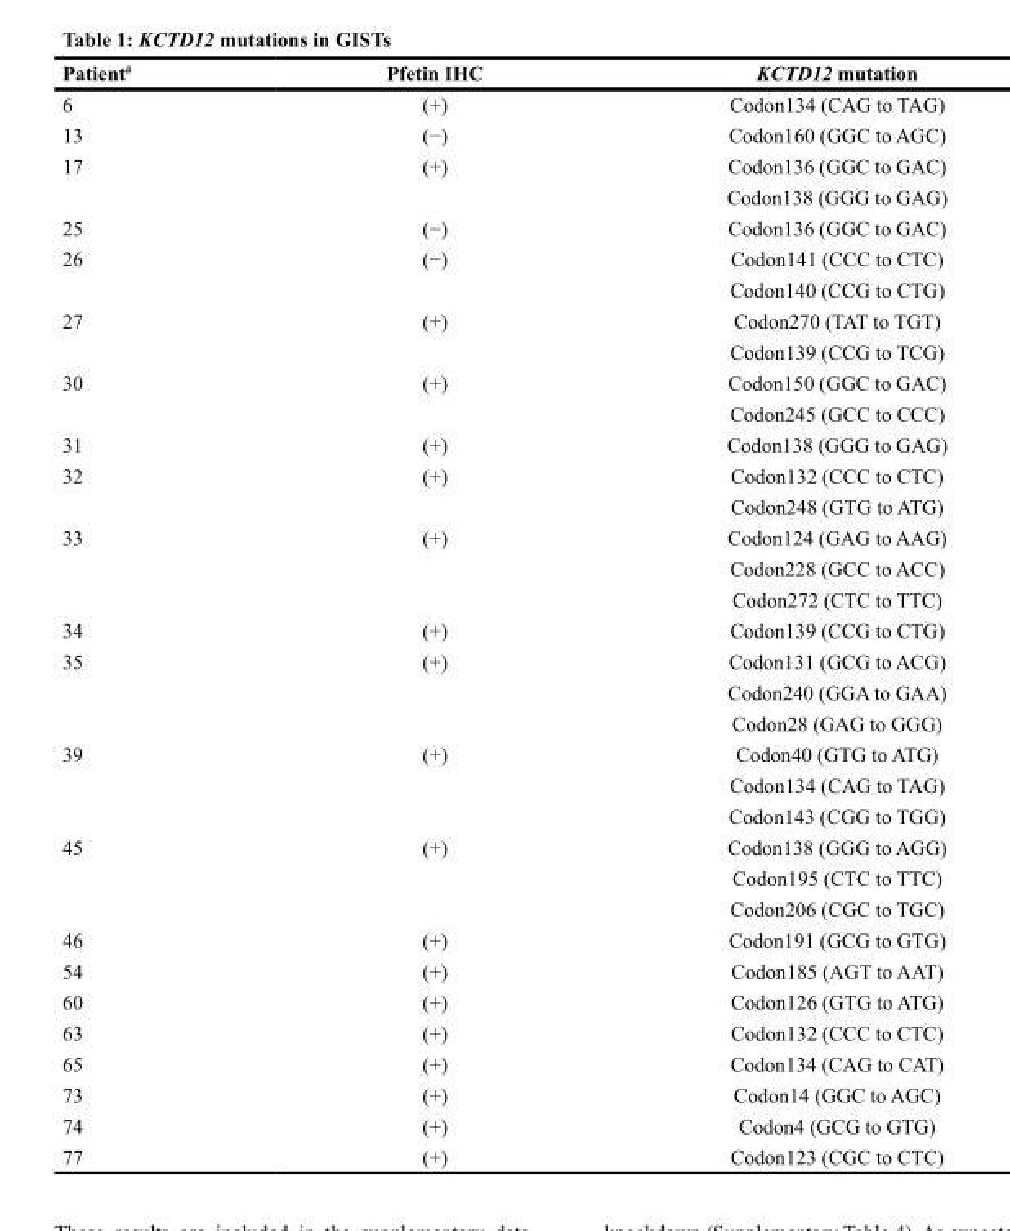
<table><thead><tr><td>Patient<sup>#</sup></td><td>Pfetin IHC</td><td>KCTD12 mutation</td></tr></thead><tbody><tr><td>6</td><td>(+)</td><td>Codon134 (CAG to TAG)</td></tr><tr><td>13</td><td>(−)</td><td>Codon160 (GGC to AGC)</td></tr><tr><td rowspan="2">17</td><td>(+)</td><td>Codon136 (GGC to GAC)</td></tr><tr><td></td><td>Codon138 (GGG to GAG)</td></tr><tr><td>25</td><td>(−)</td><td>Codon136 (GGC to GAC)</td></tr><tr><td rowspan="2">26</td><td>(−)</td><td>Codon141 (CCC to CTC)</td></tr><tr><td></td><td>Codon140 (CCG to CTG)</td></tr><tr><td rowspan="2">27</td><td>(+)</td><td>Codon270 (TAT to TGT)</td></tr><tr><td></td><td>Codon139 (CCG to TCG)</td></tr><tr><td rowspan="2">30</td><td>(+)</td><td>Codon150 (GGC to GAC)</td></tr><tr><td></td><td>Codon245 (GCC to CCC)</td></tr><tr><td>31</td><td>(+)</td><td>Codon138 (GGG to GAG)</td></tr><tr><td rowspan="2">32</td><td>(+)</td><td>Codon132 (CCC to CTC)</td></tr><tr><td></td><td>Codon248 (GTG to ATG)</td></tr><tr><td rowspan="3">33</td><td>(+)</td><td>Codon124 (GAG to AAG)</td></tr><tr><td></td><td>Codon228 (GCC to ACC)</td></tr><tr><td></td><td>Codon272 (CTC to TTC)</td></tr><tr><td>34</td><td>(+)</td><td>Codon139 (CCG to CTG)</td></tr><tr><td rowspan="3">35</td><td>(+)</td><td>Codon131 (GCG to ACG)</td></tr><tr><td></td><td>Codon240 (GGA to GAA)</td></tr><tr><td></td><td>Codon28 (GAG to GGG)</td></tr><tr><td rowspan="3">39</td><td>(+)</td><td>Codon40 (GTG to ATG)</td></tr><tr><td></td><td>Codon134 (CAG to TAG)</td></tr><tr><td></td><td>Codon143 (CGG to TGG)</td></tr><tr><td rowspan="3">45</td><td>(+)</td><td>Codon138 (GGG to AGG)</td></tr><tr><td></td><td>Codon195 (CTC to TTC)</td></tr><tr><td></td><td>Codon206 (CGC to TGC)</td></tr><tr><td>46</td><td>(+)</td><td>Codon191 (GCG to GTG)</td></tr><tr><td>54</td><td>(+)</td><td>Codon185 (AGT to AAT)</td></tr><tr><td>60</td><td>(+)</td><td>Codon126 (GTG to ATG)</td></tr><tr><td>63</td><td>(+)</td><td>Codon132 (CCC to CTC)</td></tr><tr><td>65</td><td>(+)</td><td>Codon134 (CAG to CAT)</td></tr><tr><td>73</td><td>(+)</td><td>Codon14 (GGC to AGC)</td></tr><tr><td>74</td><td>(+)</td><td>Codon4 (GCG to GTG)</td></tr><tr><td>77</td><td>(+)</td><td>Codon123 (CGC to CTC)</td></tr></tbody></table>